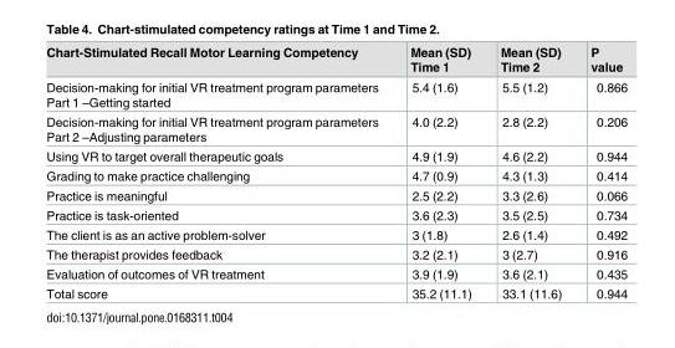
<table><thead><tr><td>Chart-Stimulated Recall Motor Learning Competency</td><td>Mean (SD) Time 1</td><td>Mean (SD) Time 2</td><td>P value</td></tr></thead><tbody><tr><td>Decision-making for initial VR treatment program parameters Part 1 –Getting started</td><td>5.4 (1.6)</td><td>5.5 (1.2)</td><td>0.866</td></tr><tr><td>Decision-making for initial VR treatment program parameters Part 2 –Adjusting parameters</td><td>4.0 (2.2)</td><td>2.8 (2.2)</td><td>0.206</td></tr><tr><td>Using VR to target overall therapeutic goals</td><td>4.9 (1.9)</td><td>4.6 (2.2)</td><td>0.944</td></tr><tr><td>Grading to make practice challenging</td><td>4.7 (0.9)</td><td>4.3 (1.3)</td><td>0.414</td></tr><tr><td>Practice is meaningful</td><td>2.5 (2.2)</td><td>3.3 (2.6)</td><td>0.066</td></tr><tr><td>Practice is task-oriented</td><td>3.6 (2.3)</td><td>3.5 (2.5)</td><td>0.734</td></tr><tr><td>The client is as an active problem-solver</td><td>3 (1.8)</td><td>2.6 (1.4)</td><td>0.492</td></tr><tr><td>The therapist provides feedback</td><td>3.2 (2.1)</td><td>3 (2.7)</td><td>0.916</td></tr><tr><td>Evaluation of outcomes of VR treatment</td><td>3.9 (1.9)</td><td>3.6 (2.1)</td><td>0.435</td></tr><tr><td>Total score</td><td>35.2 (11.1)</td><td>33.1 (11.6)</td><td>0.944</td></tr></tbody></table>